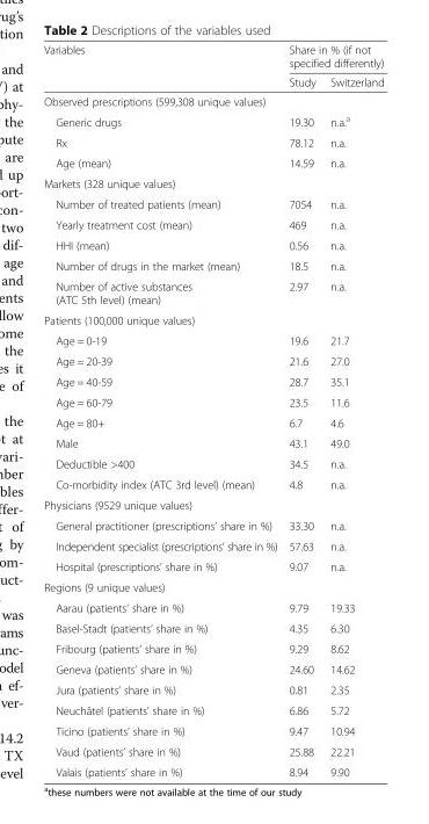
<table><thead><tr><td rowspan="2">Variables</td><td colspan="2">Share in % (if not specified differently)</td></tr><tr><td>Study</td><td>Switzerland</td></tr></thead><tbody><tr><td colspan="3">Observed prescriptions (599,308 unique values)</td></tr><tr><td>Generic drugs</td><td>19.30</td><td>n.a.<sup>a</sup></td></tr><tr><td>Rx</td><td>78.12</td><td>n.a.</td></tr><tr><td>Age (mean)</td><td>14.59</td><td>n.a.</td></tr><tr><td colspan="3">Markets (328 unique values)</td></tr><tr><td>Number of treated patients (mean)</td><td>7054</td><td>n.a.</td></tr><tr><td>Yearly treatment cost (mean)</td><td>469</td><td>n.a.</td></tr><tr><td>HHI (mean)</td><td>0.56</td><td>n.a.</td></tr><tr><td>Number of drugs in the market (mean)</td><td>18.5</td><td>n.a.</td></tr><tr><td>Number of active substances (ATC 5th level) (mean)</td><td>2.97</td><td>n.a.</td></tr><tr><td colspan="3">Patients (100,000 unique values)</td></tr><tr><td>Age = 0-19</td><td>19.6</td><td>21.7</td></tr><tr><td>Age = 20-39</td><td>21.6</td><td>27.0</td></tr><tr><td>Age = 40-59</td><td>28.7</td><td>35.1</td></tr><tr><td>Age = 60-79</td><td>23.5</td><td>11.6</td></tr><tr><td>Age = 80+</td><td>6.7</td><td>4.6</td></tr><tr><td>Male</td><td>43.1</td><td>49.0</td></tr><tr><td>Deductible &gt;400</td><td>34.5</td><td>n.a.</td></tr><tr><td>Co-morbidity index (ATC 3rd level) (mean)</td><td>4.8</td><td>n.a.</td></tr><tr><td colspan="3">Physicians (9529 unique values)</td></tr><tr><td>General practitioner (prescriptions’ share in %)</td><td>33.30</td><td>n.a.</td></tr><tr><td>Independent specialist (prescriptions’ share in %)</td><td>57.63</td><td>n.a.</td></tr><tr><td>Hospital (prescriptions’ share in %)</td><td>9.07</td><td>n.a.</td></tr><tr><td colspan="3">Regions (9 unique values)</td></tr><tr><td>Aarau (patients’ share in %)</td><td>9.79</td><td>19.33</td></tr><tr><td>Basel-Stadt (patients’ share in %)</td><td>4.35</td><td>6.30</td></tr><tr><td>Fribourg (patients’ share in %)</td><td>9.29</td><td>8.62</td></tr><tr><td>Geneva (patients’ share in %)</td><td>24.60</td><td>14.62</td></tr><tr><td>Jura (patients’ share in %)</td><td>0.81</td><td>2.35</td></tr><tr><td>Neuchâtel (patients’ share in %)</td><td>6.86</td><td>5.72</td></tr><tr><td>Ticino (patients’ share in %)</td><td>9.47</td><td>10.94</td></tr><tr><td>Vaud (patients’ share in %)</td><td>25.88</td><td>22.21</td></tr><tr><td>Valais (patients’ share in %)</td><td>8.94</td><td>9.90</td></tr></tbody></table>